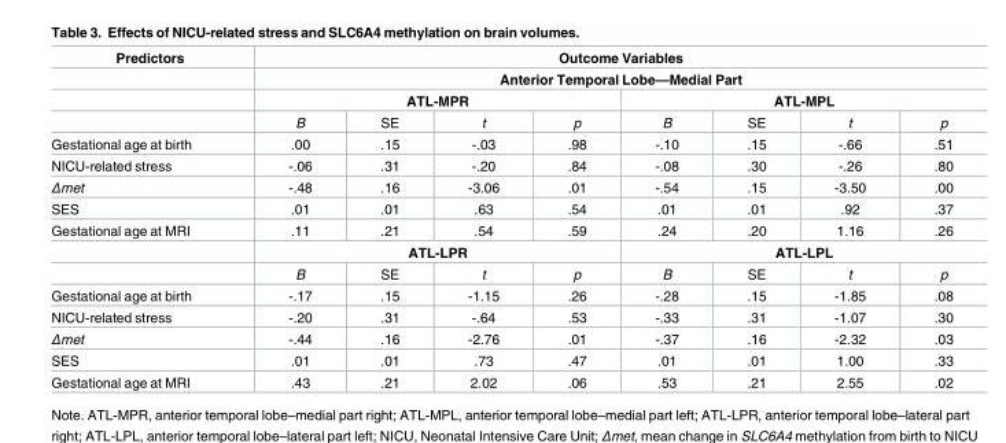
<table><thead><tr><td rowspan="4">Predictors</td><td rowspan="2" colspan="8">Outcome Variables Anterior Temporal Lobe—Medial Part</td></tr><tr></tr><tr><td colspan="4">ATL-MPR</td><td colspan="4">ATL-MPL</td></tr><tr><td>B</td><td>SE</td><td>t</td><td>p</td><td>B</td><td>SE</td><td>t</td><td>p</td></tr></thead><tbody><tr><td>Gestational age at birth</td><td>.00</td><td>.15</td><td>-.03</td><td>.98</td><td>-.10</td><td>.15</td><td>-.66</td><td>.51</td></tr><tr><td>NICU-related stress</td><td>-.06</td><td>.31</td><td>-.20</td><td>.84</td><td>-.08</td><td>.30</td><td>-.26</td><td>.80</td></tr><tr><td>Δmet</td><td>-.48</td><td>.16</td><td>-3.06</td><td>.01</td><td>-.54</td><td>.15</td><td>-3.50</td><td>.00</td></tr><tr><td>SES</td><td>.01</td><td>.01</td><td>.63</td><td>.54</td><td>.01</td><td>.01</td><td>.92</td><td>.37</td></tr><tr><td rowspan="3">Gestational age at MRI</td><td>.11</td><td>.21</td><td>.54</td><td>.59</td><td>.24</td><td>.20</td><td>1.16</td><td>.26</td></tr><tr><td colspan="4">ATL-LPR</td><td colspan="4">ATL-LPL</td></tr><tr><td>B</td><td>SE</td><td>t</td><td>p</td><td>B</td><td>SE</td><td>t</td><td>p</td></tr><tr><td>Gestational age at birth</td><td>-.17</td><td>.15</td><td>-1.15</td><td>.26</td><td>-.28</td><td>.15</td><td>-1.85</td><td>.08</td></tr><tr><td>NICU-related stress</td><td>-.20</td><td>.31</td><td>-.64</td><td>.53</td><td>-.33</td><td>.31</td><td>-1.07</td><td>.30</td></tr><tr><td>Δmet</td><td>-.44</td><td>.16</td><td>-2.76</td><td>.01</td><td>-.37</td><td>.16</td><td>-2.32</td><td>.03</td></tr><tr><td>SES</td><td>.01</td><td>.01</td><td>.73</td><td>.47</td><td>.01</td><td>.01</td><td>1.00</td><td>.33</td></tr><tr><td>Gestational age at MRI</td><td>.43</td><td>.21</td><td>2.02</td><td>.06</td><td>.53</td><td>.21</td><td>2.55</td><td>.02</td></tr></tbody></table>